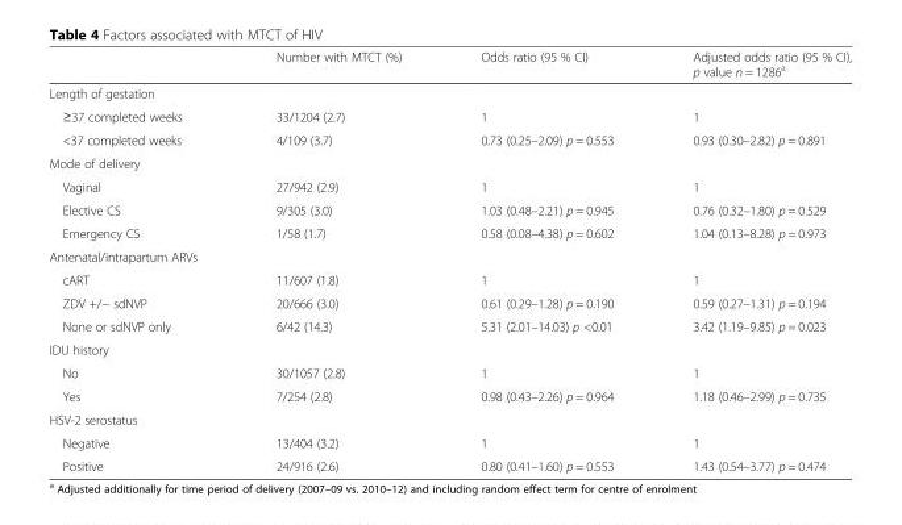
<table><thead><tr><td></td><td>Number with MTCT (%)</td><td>Odds ratio (95 % CI)</td><td>Adjusted odds ratio (95 % CI), p value n = 1286<sup>a</sup></td></tr></thead><tbody><tr><td colspan="4">Length of gestation</td></tr><tr><td>≥37 completed weeks</td><td>33/1204 (2.7)</td><td>1</td><td>1</td></tr><tr><td>&lt;37 completed weeks</td><td>4/109 (3.7)</td><td>0.73 (0.25–2.09) p = 0.553</td><td>0.93 (0.30–2.82) p = 0.891</td></tr><tr><td colspan="4">Mode of delivery</td></tr><tr><td>Vaginal</td><td>27/942 (2.9)</td><td>1</td><td>1</td></tr><tr><td>Elective CS</td><td>9/305 (3.0)</td><td>1.03 (0.48–2.21) p = 0.945</td><td>0.76 (0.32–1.80) p = 0.529</td></tr><tr><td>Emergency CS</td><td>1/58 (1.7)</td><td>0.58 (0.08–4.38) p = 0.602</td><td>1.04 (0.13–8.28) p = 0.973</td></tr><tr><td colspan="4">Antenatal/intrapartum ARVs</td></tr><tr><td>cART</td><td>11/607 (1.8)</td><td>1</td><td>1</td></tr><tr><td>ZDV +/− sdNVP</td><td>20/666 (3.0)</td><td>0.61 (0.29–1.28) p = 0.190</td><td>0.59 (0.27–1.31) p = 0.194</td></tr><tr><td>None or sdNVP only</td><td>6/42 (14.3)</td><td>5.31 (2.01–14.03) p &lt;0.01</td><td>3.42 (1.19–9.85) p = 0.023</td></tr><tr><td colspan="4">IDU history</td></tr><tr><td>No</td><td>30/1057 (2.8)</td><td>1</td><td>1</td></tr><tr><td>Yes</td><td>7/254 (2.8)</td><td>0.98 (0.43–2.26) p = 0.964</td><td>1.18 (0.46–2.99) p = 0.735</td></tr><tr><td colspan="4">HSV-2 serostatus</td></tr><tr><td>Negative</td><td>13/404 (3.2)</td><td>1</td><td>1</td></tr><tr><td>Positive</td><td>24/916 (2.6)</td><td>0.80 (0.41–1.60) p = 0.553</td><td>1.43 (0.54–3.77) p = 0.474</td></tr></tbody></table>